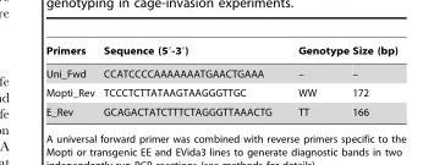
<table><thead><tr><td>Primers</td><td>Sequence (5′-3′)</td><td>Genotype</td><td>Size (bp)</td></tr></thead><tbody><tr><td>Uni_Fwd</td><td>CCATCCCCAAAAAAATGAACTGAAA</td><td>–</td><td>–</td></tr><tr><td>Mopti_Rev</td><td>TCCCTCTTATAAGTAAGGGTTGC</td><td>WW</td><td>172</td></tr><tr><td>E_Rev</td><td>GCAGACTATCTTTCTAGGGTTAAACTG</td><td>TT</td><td>166</td></tr></tbody></table>